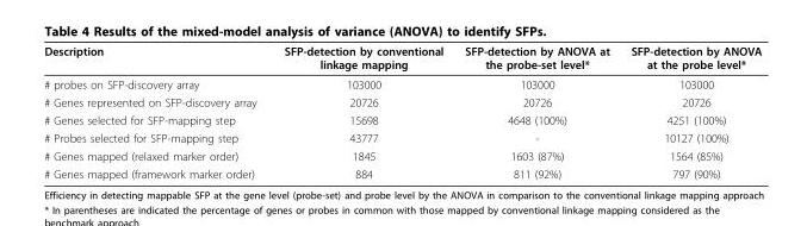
<table><thead><tr><td>Description</td><td>SFP-detection by conventional linkage mapping</td><td>SFP-detection by ANOVA at the probe-set level*</td><td>SFP-detection by ANOVA at the probe level*</td></tr></thead><tbody><tr><td># probes on SFP-discovery array</td><td>103000</td><td>103000</td><td>103000</td></tr><tr><td># Genes represented on SFP-discovery array</td><td>20726</td><td>20726</td><td>20726</td></tr><tr><td># Genes selected for SFP-mapping step</td><td>15698</td><td>4648 (100%)</td><td>4251 (100%)</td></tr><tr><td># Probes selected for SFP-mapping step</td><td>43777</td><td>-</td><td>10127 (100%)</td></tr><tr><td># Genes mapped (relaxed marker order)</td><td>1845</td><td>1603 (87%)</td><td>1564 (85%)</td></tr><tr><td># Genes mapped (framework marker order)</td><td>884</td><td>811 (92%)</td><td>797 (90%)</td></tr></tbody></table>